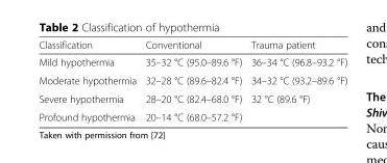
<table><thead><tr><td>Classification</td><td>Conventional</td><td>Trauma patient</td></tr></thead><tbody><tr><td>Mild hypothermia</td><td>35–32 °C (95.0–89.6 °F)</td><td>36–34 °C (96.8–93.2 °F)</td></tr><tr><td>Moderate hypothermia</td><td>32–28 °C (89.6–82.4 °F)</td><td>34–32 °C (93.2–89.6 °F)</td></tr><tr><td>Severe hypothermia</td><td>28–20 °C (82.4–68.0 °F)</td><td>32 °C (89.6 °F)</td></tr><tr><td>Profound hypothermia</td><td>20–14 °C (68.0–57.2 °F)</td><td></td></tr></tbody></table>